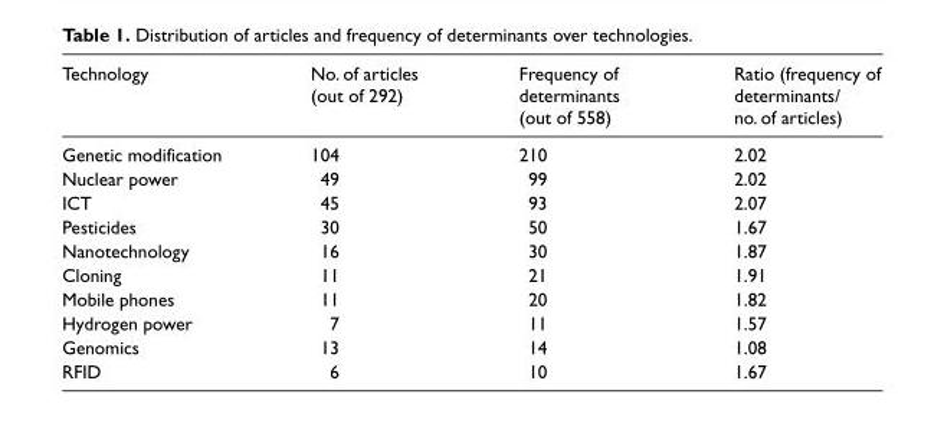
<table><thead><tr><td>Technology</td><td>No. of articles (out of 292)</td><td>Frequency of determinants (out of 558)</td><td>Ratio (frequency of determinants/ no. of articles)</td></tr></thead><tbody><tr><td>Genetic modification</td><td>104</td><td>210</td><td>2.02</td></tr><tr><td>Nuclear power</td><td>49</td><td>99</td><td>2.02</td></tr><tr><td>ICT</td><td>45</td><td>93</td><td>2.07</td></tr><tr><td>Pesticides</td><td>30</td><td>50</td><td>1.67</td></tr><tr><td>Nanotechnology</td><td>16</td><td>30</td><td>1.87</td></tr><tr><td>Cloning</td><td>11</td><td>21</td><td>1.91</td></tr><tr><td>Mobile phones</td><td>11</td><td>20</td><td>1.82</td></tr><tr><td>Hydrogen power</td><td>7</td><td>11</td><td>1.57</td></tr><tr><td>Genomics</td><td>13</td><td>14</td><td>1.08</td></tr><tr><td>RFID</td><td>6</td><td>10</td><td>1.67</td></tr></tbody></table>